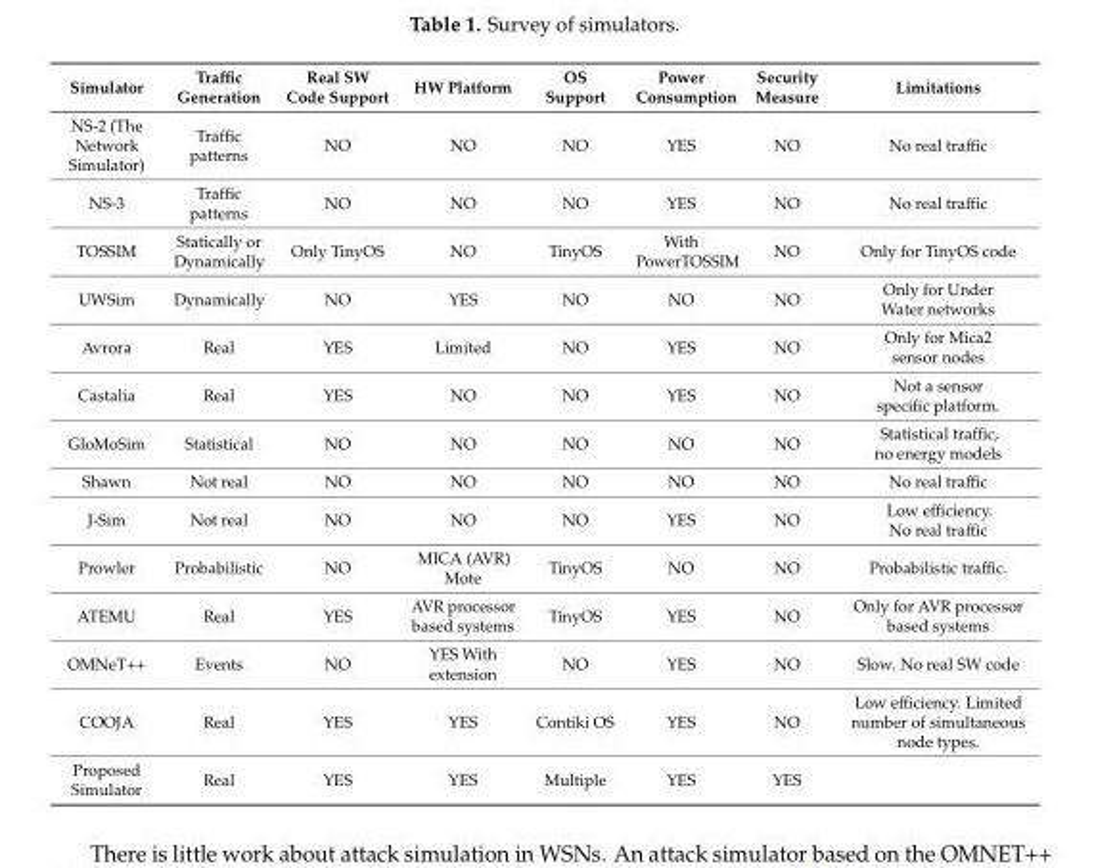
<table><thead><tr><td>Simulator</td><td>Traffic Generation</td><td>Real SW Code Support</td><td>HW Platform</td><td>OS Support</td><td>Power Consumption</td><td>Security Measure</td><td>Limitations</td></tr></thead><tbody><tr><td>NS-2 (The Network Simulator)</td><td>Traffic patterns</td><td>NO</td><td>NO</td><td>NO</td><td>YES</td><td>NO</td><td>No real traffic</td></tr><tr><td>NS-3</td><td>Traffic patterns</td><td>NO</td><td>NO</td><td>NO</td><td>YES</td><td>NO</td><td>No real traffic</td></tr><tr><td>TOSSIM</td><td>Statically or Dynamically</td><td>Only TinyOS</td><td>NO</td><td>TinyOS</td><td>With PowerTOSSIM</td><td>NO</td><td>Only for TinyOS code</td></tr><tr><td>UWSim</td><td>Dynamically</td><td>NO</td><td>YES</td><td>NO</td><td>NO</td><td>NO</td><td>Only for Under Water networks</td></tr><tr><td>Avrora</td><td>Real</td><td>YES</td><td>Limited</td><td>NO</td><td>YES</td><td>NO</td><td>Only for Mica2 sensor nodes</td></tr><tr><td>Castalia</td><td>Real</td><td>YES</td><td>NO</td><td>NO</td><td>YES</td><td>NO</td><td>Not a sensor specific platform.</td></tr><tr><td>GloMoSim</td><td>Statistical</td><td>NO</td><td>NO</td><td>NO</td><td>NO</td><td>NO</td><td>Statistical traffic, no energy models</td></tr><tr><td>Shawn</td><td>Not real</td><td>NO</td><td>NO</td><td>NO</td><td>NO</td><td>NO</td><td>No real traffic</td></tr><tr><td>J-Sim</td><td>Not real</td><td>NO</td><td>NO</td><td>NO</td><td>YES</td><td>NO</td><td>Low efficiency. No real traffic</td></tr><tr><td>Prowler</td><td>Probabilistic</td><td>NO</td><td>MICA (AVR) Mote</td><td>TinyOS</td><td>NO</td><td>NO</td><td>Probabilistic traffic.</td></tr><tr><td>ATEMU</td><td>Real</td><td>YES</td><td>AVR processor based systems</td><td>TinyOS</td><td>YES</td><td>NO</td><td>Only for AVR processor based systems</td></tr><tr><td>OMNeT++</td><td>Events</td><td>NO</td><td>YES With extension</td><td>NO</td><td>YES</td><td>NO</td><td>Slow. No real SW code</td></tr><tr><td>COOJA</td><td>Real</td><td>YES</td><td>YES</td><td>Contiki OS</td><td>YES</td><td>NO</td><td>Low efficiency. Limited number of simultaneous node types.</td></tr><tr><td>Proposed Simulator</td><td>Real</td><td>YES</td><td>YES</td><td>Multiple</td><td>YES</td><td>YES</td><td></td></tr></tbody></table>